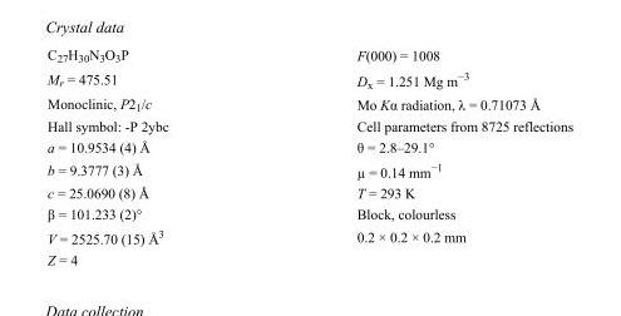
<table><tbody><tr><td>C<sub>27</sub>H<sub>30</sub>N<sub>3</sub>O<sub>3</sub>P</td><td>F(000) = 1008</td></tr><tr><td>M<sub>r</sub> = 475.51</td><td>D<sub>x</sub> = 1.251 Mg m<sup>−3</sup></td></tr><tr><td>Monoclinic, P2<sub>1</sub>/c</td><td>Mo Kα radiation, λ = 0.71073 Å</td></tr><tr><td>Hall symbol: -P 2ybc</td><td>Cell parameters from 8725 reflections</td></tr><tr><td>a = 10.9534 (4) Å</td><td>θ = 2.8–29.1°</td></tr><tr><td>b = 9.3777 (3) Å</td><td>µ = 0.14 mm<sup>−1</sup></td></tr><tr><td>c = 25.0690 (8) Å</td><td>T = 293 K</td></tr><tr><td>β = 101.233 (2)°</td><td>Block, colourless</td></tr><tr><td>V = 2525.70 (15) Å<sup>3</sup></td><td>0.2 × 0.2 × 0.2 mm</td></tr><tr><td>Z = 4</td><td></td></tr></tbody></table>